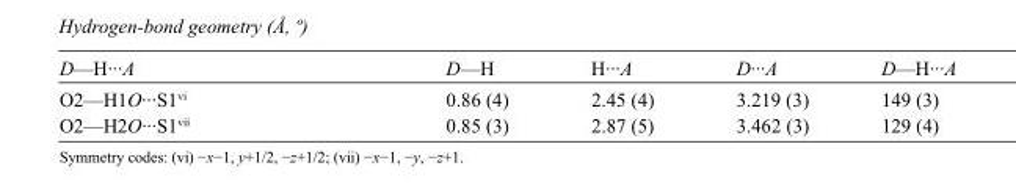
<table><tbody><tr><td>D—H···A</td><td>D—H</td><td>H···A</td><td>D···A</td><td>D—H···A</td></tr><tr><td>O2—H1O···S1<sup>vi</sup></td><td>0.86 (4)</td><td>2.45 (4)</td><td>3.219 (3)</td><td>149 (3)</td></tr><tr><td>O2—H2O···S1<sup>vii</sup></td><td>0.85 (3)</td><td>2.87 (5)</td><td>3.462 (3)</td><td>129 (4)</td></tr></tbody></table>